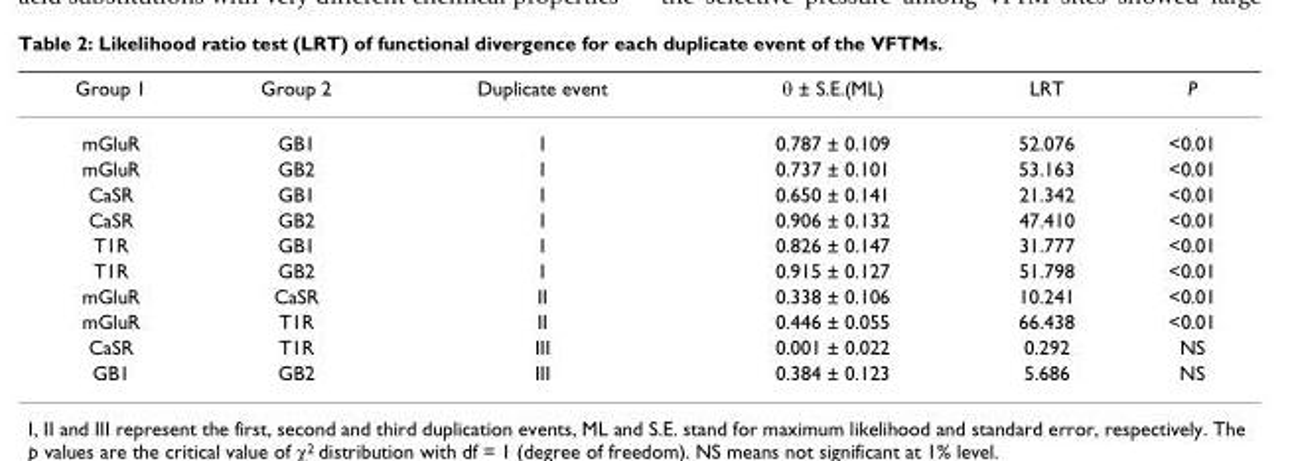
<table><thead><tr><td>Group 1</td><td>Group 2</td><td>Duplicate event</td><td>θ ± S.E.(ML)</td><td>LRT</td><td>P</td></tr></thead><tbody><tr><td>mGluR</td><td>GB1</td><td>I</td><td>0.787 ± 0.109</td><td>52.076</td><td>&lt;0.01</td></tr><tr><td>mGluR</td><td>GB2</td><td>I</td><td>0.737 ± 0.101</td><td>53.163</td><td>&lt;0.01</td></tr><tr><td>CaSR</td><td>GB1</td><td>I</td><td>0.650 ± 0.141</td><td>21.342</td><td>&lt;0.01</td></tr><tr><td>CaSR</td><td>GB2</td><td>I</td><td>0.906 ± 0.132</td><td>47.410</td><td>&lt;0.01</td></tr><tr><td>T1R</td><td>GB1</td><td>I</td><td>0.826 ± 0.147</td><td>31.777</td><td>&lt;0.01</td></tr><tr><td>T1R</td><td>GB2</td><td>I</td><td>0.915 ± 0.127</td><td>51.798</td><td>&lt;0.01</td></tr><tr><td>mGluR</td><td>CaSR</td><td>II</td><td>0.338 ± 0.106</td><td>10.241</td><td>&lt;0.01</td></tr><tr><td>mGluR</td><td>T1R</td><td>II</td><td>0.446 ± 0.055</td><td>66.438</td><td>&lt;0.01</td></tr><tr><td>CaSR</td><td>T1R</td><td>III</td><td>0.001 ± 0.022</td><td>0.292</td><td>NS</td></tr><tr><td>GB1</td><td>GB2</td><td>III</td><td>0.384 ± 0.123</td><td>5.686</td><td>NS</td></tr></tbody></table>